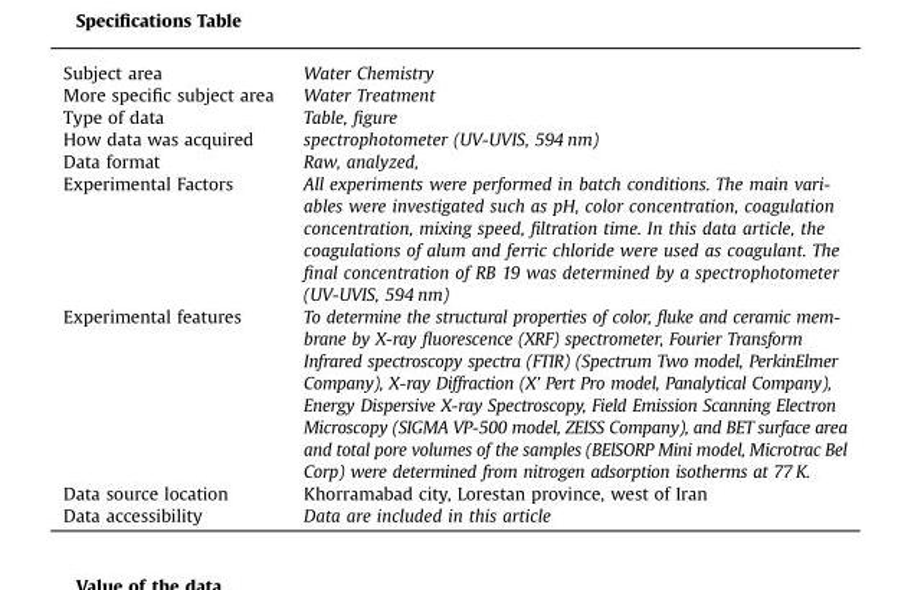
<table><tbody><tr><td>Subject area</td><td>Water Chemistry</td></tr><tr><td>More specific subject area</td><td>Water Treatment</td></tr><tr><td>Type of data</td><td>Table, figure</td></tr><tr><td>How data was acquired</td><td>spectrophotometer (UV-UVIS, 594 nm)</td></tr><tr><td>Data format</td><td>Raw, analyzed,</td></tr><tr><td>Experimental Factors</td><td>All experiments were performed in batch conditions. The main vari- ables were investigated such as pH, color concentration, coagulation concentration, mixing speed, filtration time. In this data article, the coagulations of alum and ferric chloride were used as coagulant. The final concentration of RB 19 was determined by a spectrophotometer (UV-UVIS, 594 nm)</td></tr><tr><td>Experimental features</td><td>To determine the structural properties of color, fluke and ceramic mem- brane by X-ray fluorescence (XRF) spectrometer, Fourier Transform Infrared spectroscopy spectra (FTIR) (Spectrum Two model, PerkinElmer Company), X-ray Diffraction (X’ Pert Pro model, Panalytical Company), Energy Dispersive X-ray Spectroscopy, Field Emission Scanning Electron Microscopy (SIGMA VP-500 model, ZEISS Company), and BET surface area and total pore volumes of the samples (BElSORP Mini model, Microtrac Bel Corp) were determined from nitrogen adsorption isotherms at 77 K.</td></tr><tr><td>Data source location</td><td>Khorramabad city, Lorestan province, west of Iran</td></tr><tr><td>Data accessibility</td><td>Data are included in this article</td></tr></tbody></table>